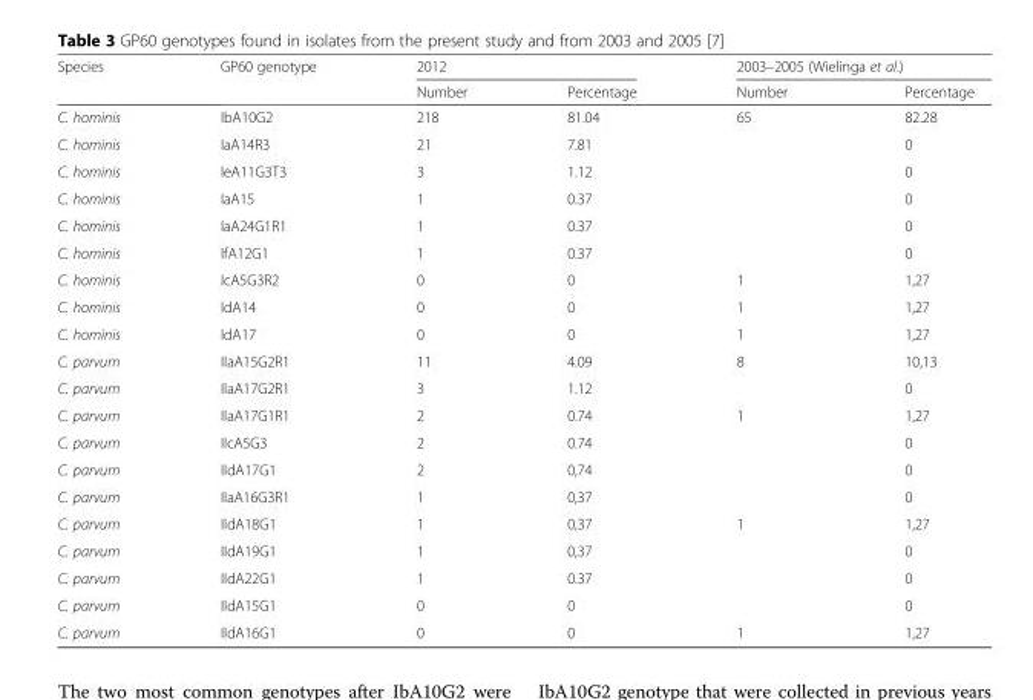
<table><thead><tr><td rowspan="2">Species</td><td rowspan="2">GP60 genotype</td><td colspan="2">2012</td><td colspan="2">2003–2005 (Wielinga et al.)</td></tr><tr><td>Number</td><td>Percentage</td><td>Number</td><td>Percentage</td></tr></thead><tbody><tr><td>C. hominis</td><td>IbA10G2</td><td>218</td><td>81.04</td><td>65</td><td>82.28</td></tr><tr><td>C. hominis</td><td>IaA14R3</td><td>21</td><td>7.81</td><td></td><td>0</td></tr><tr><td>C. hominis</td><td>IeA11G3T3</td><td>3</td><td>1.12</td><td></td><td>0</td></tr><tr><td>C. hominis</td><td>IaA15</td><td>1</td><td>0.37</td><td></td><td>0</td></tr><tr><td>C. hominis</td><td>IaA24G1R1</td><td>1</td><td>0.37</td><td></td><td>0</td></tr><tr><td>C. hominis</td><td>IfA12G1</td><td>1</td><td>0.37</td><td></td><td>0</td></tr><tr><td>C. hominis</td><td>IcA5G3R2</td><td>0</td><td>0</td><td>1</td><td>1,27</td></tr><tr><td>C. hominis</td><td>IdA14</td><td>0</td><td>0</td><td>1</td><td>1,27</td></tr><tr><td>C. hominis</td><td>IdA17</td><td>0</td><td>0</td><td>1</td><td>1,27</td></tr><tr><td>C. parvum</td><td>IIaA15G2R1</td><td>11</td><td>4.09</td><td>8</td><td>10,13</td></tr><tr><td>C. parvum</td><td>IIaA17G2R1</td><td>3</td><td>1.12</td><td></td><td>0</td></tr><tr><td>C. parvum</td><td>IIaA17G1R1</td><td>2</td><td>0.74</td><td>1</td><td>1,27</td></tr><tr><td>C. parvum</td><td>IIcA5G3</td><td>2</td><td>0.74</td><td></td><td>0</td></tr><tr><td>C. parvum</td><td>IIdA17G1</td><td>2</td><td>0,74</td><td></td><td>0</td></tr><tr><td>C. parvum</td><td>IIaA16G3R1</td><td>1</td><td>0,37</td><td></td><td>0</td></tr><tr><td>C. parvum</td><td>IIdA18G1</td><td>1</td><td>0,37</td><td>1</td><td>1,27</td></tr><tr><td>C. parvum</td><td>IIdA19G1</td><td>1</td><td>0,37</td><td></td><td>0</td></tr><tr><td>C. parvum</td><td>IIdA22G1</td><td>1</td><td>0.37</td><td></td><td>0</td></tr><tr><td>C. parvum</td><td>IIdA15G1</td><td>0</td><td>0</td><td></td><td>0</td></tr><tr><td>C. parvum</td><td>IIdA16G1</td><td>0</td><td>0</td><td>1</td><td>1,27</td></tr></tbody></table>